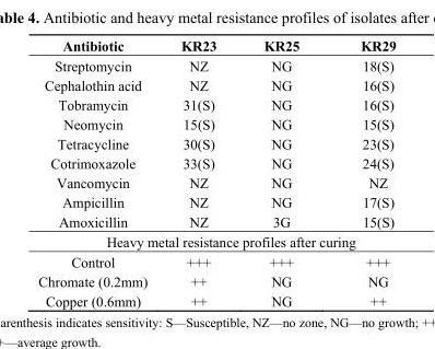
<table><thead><tr><td>Antibiotic</td><td>KR23</td><td>KR25</td><td>KR29</td></tr></thead><tbody><tr><td>Streptomycin</td><td>NZ</td><td>NG</td><td>18(S)</td></tr><tr><td>Cephalothin acid</td><td>NZ</td><td>NG</td><td>16(S)</td></tr><tr><td>Tobramycin</td><td>31(S)</td><td>NG</td><td>16(S)</td></tr><tr><td>Neomycin</td><td>15(S)</td><td>NG</td><td>15(S)</td></tr><tr><td>Tetracycline</td><td>30(S)</td><td>NG</td><td>23(S)</td></tr><tr><td>Cotrimoxazole</td><td>33(S)</td><td>NG</td><td>24(S)</td></tr><tr><td>Vancomycin</td><td>NZ</td><td>NG</td><td>NZ</td></tr><tr><td>Ampicillin</td><td>NZ</td><td>NG</td><td>17(S)</td></tr><tr><td>Amoxicillin</td><td>NZ</td><td>3G</td><td>15(S)</td></tr><tr><td colspan="4">Heavy metal resistance profiles after curing</td></tr><tr><td>Control</td><td>+++</td><td>+++</td><td>+++</td></tr><tr><td>Chromate (0.2mm)</td><td>++</td><td>NG</td><td>NG</td></tr><tr><td>Copper (0.6mm)</td><td>++</td><td>NG</td><td>++</td></tr></tbody></table>